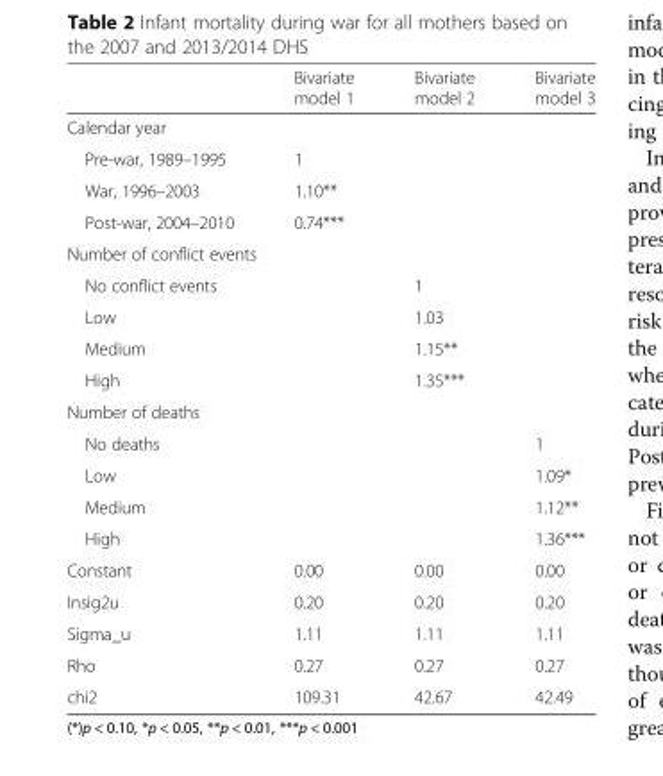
<table><thead><tr><td></td><td>Bivariate model 1</td><td>Bivariate model 2</td><td>Bivariate model 3</td></tr></thead><tbody><tr><td colspan="4">Calendar year</td></tr><tr><td>Pre-war, 1989–1995</td><td>1</td><td></td><td></td></tr><tr><td>War, 1996–2003</td><td>1.10**</td><td></td><td></td></tr><tr><td>Post-war, 2004–2010</td><td>0.74***</td><td></td><td></td></tr><tr><td colspan="4">Number of conflict events</td></tr><tr><td>No conflict events</td><td></td><td>1</td><td></td></tr><tr><td>Low</td><td></td><td>1.03</td><td></td></tr><tr><td>Medium</td><td></td><td>1.15**</td><td></td></tr><tr><td>High</td><td></td><td>1.35***</td><td></td></tr><tr><td colspan="4">Number of deaths</td></tr><tr><td>No deaths</td><td></td><td></td><td>1</td></tr><tr><td>Low</td><td></td><td></td><td>1.09*</td></tr><tr><td>Medium</td><td></td><td></td><td>1.12**</td></tr><tr><td>High</td><td></td><td></td><td>1.36***</td></tr><tr><td>Constant</td><td>0.00</td><td>0.00</td><td>0.00</td></tr><tr><td>Insig2u</td><td>0.20</td><td>0.20</td><td>0.20</td></tr><tr><td>Sigma_u</td><td>1.11</td><td>1.11</td><td>1.11</td></tr><tr><td>Rho</td><td>0.27</td><td>0.27</td><td>0.27</td></tr><tr><td>chi2</td><td>109.31</td><td>42.67</td><td>42.49</td></tr></tbody></table>